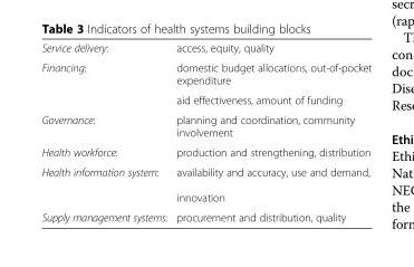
<table><tbody><tr><td>Service delivery:</td><td>access, equity, quality</td></tr><tr><td rowspan="2">Financing:</td><td>domestic budget allocations, out-of-pocket expenditure</td></tr><tr><td>aid effectiveness, amount of funding</td></tr><tr><td>Governance:</td><td>planning and coordination, community involvement</td></tr><tr><td>Health workforce:</td><td>production and strengthening, distribution</td></tr><tr><td>Health information system:</td><td>availability and accuracy, use and demand, innovation</td></tr><tr><td>Supply management systems:</td><td>procurement and distribution, quality</td></tr></tbody></table>